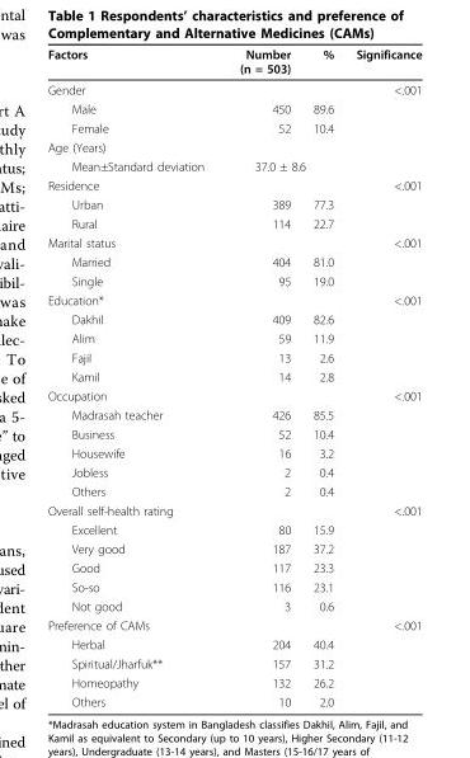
<table><thead><tr><td>Factors</td><td>Number (n = 503)</td><td>%</td><td>Significance</td></tr></thead><tbody><tr><td>Gender</td><td></td><td></td><td>&lt;.001</td></tr><tr><td>Male</td><td>450</td><td>89.6</td><td></td></tr><tr><td>Female</td><td>52</td><td>10.4</td><td></td></tr><tr><td colspan="4">Age (Years)</td></tr><tr><td>Mean±Standard deviation</td><td colspan="2">37.0 ± 8.6</td><td></td></tr><tr><td>Residence</td><td></td><td></td><td>&lt;.001</td></tr><tr><td>Urban</td><td>389</td><td>77.3</td><td></td></tr><tr><td>Rural</td><td>114</td><td>22.7</td><td></td></tr><tr><td>Marital status</td><td></td><td></td><td>&lt;.001</td></tr><tr><td>Married</td><td>404</td><td>81.0</td><td></td></tr><tr><td>Single</td><td>95</td><td>19.0</td><td></td></tr><tr><td>Education*</td><td></td><td></td><td>&lt;.001</td></tr><tr><td>Dakhil</td><td>409</td><td>82.6</td><td></td></tr><tr><td>Alim</td><td>59</td><td>11.9</td><td></td></tr><tr><td>Fajil</td><td>13</td><td>2.6</td><td></td></tr><tr><td>Kamil</td><td>14</td><td>2.8</td><td></td></tr><tr><td>Occupation</td><td></td><td></td><td>&lt;.001</td></tr><tr><td>Madrasah teacher</td><td>426</td><td>85.5</td><td></td></tr><tr><td>Business</td><td>52</td><td>10.4</td><td></td></tr><tr><td>Housewife</td><td>16</td><td>3.2</td><td></td></tr><tr><td>Jobless</td><td>2</td><td>0.4</td><td></td></tr><tr><td>Others</td><td>2</td><td>0.4</td><td></td></tr><tr><td>Overall self-health rating</td><td></td><td></td><td>&lt;.001</td></tr><tr><td>Excellent</td><td>80</td><td>15.9</td><td></td></tr><tr><td>Very good</td><td>187</td><td>37.2</td><td></td></tr><tr><td>Good</td><td>117</td><td>23.3</td><td></td></tr><tr><td>So-so</td><td>116</td><td>23.1</td><td></td></tr><tr><td>Not good</td><td>3</td><td>0.6</td><td></td></tr><tr><td>Preference of CAMs</td><td></td><td></td><td>&lt;.001</td></tr><tr><td>Herbal</td><td>204</td><td>40.4</td><td></td></tr><tr><td>Spiritual/Jharfuk**</td><td>157</td><td>31.2</td><td></td></tr><tr><td>Homeopathy</td><td>132</td><td>26.2</td><td></td></tr><tr><td>Others</td><td>10</td><td>2.0</td><td></td></tr></tbody></table>